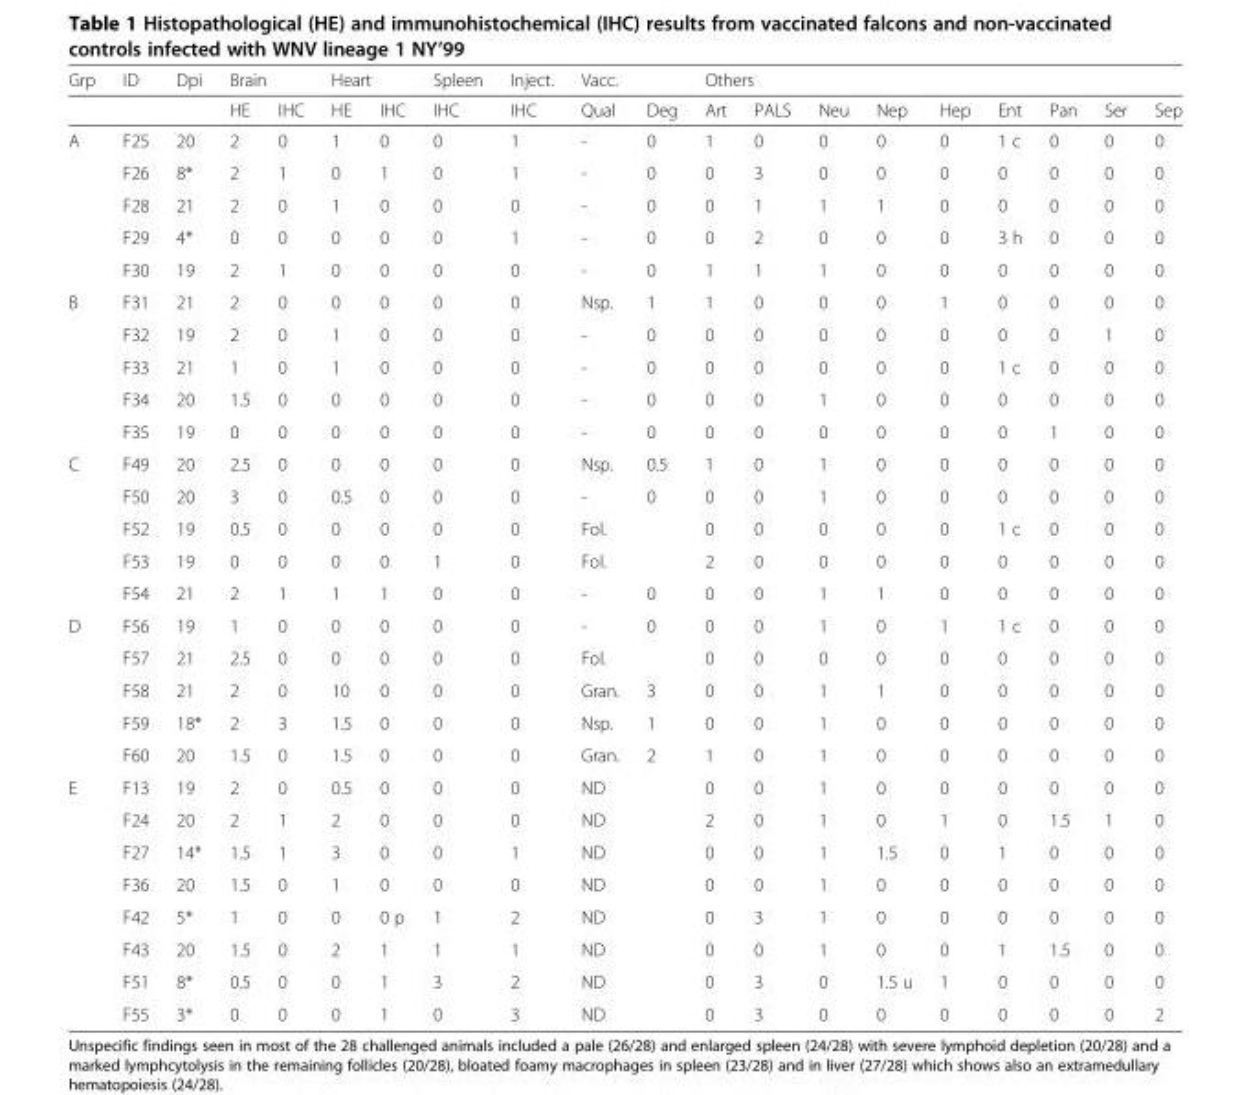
<table><thead><tr><td rowspan="2">Grp</td><td rowspan="2">ID</td><td rowspan="2">Dpi</td><td colspan="2">Brain</td><td colspan="2">Heart</td><td rowspan="2">Spleen IHC</td><td rowspan="2">Inject. IHC</td><td colspan="2">Vacc.</td><td colspan="9">Others</td></tr><tr><td>HE</td><td>IHC</td><td>HE</td><td>IHC</td><td>Qual</td><td>Deg</td><td>Art</td><td>PALS</td><td>Neu</td><td>Nep</td><td>Hep</td><td>Ent</td><td>Pan</td><td>Ser</td><td>Sep</td></tr></thead><tbody><tr><td rowspan="5">A</td><td>F25</td><td>20</td><td>2</td><td>0</td><td>1</td><td>0</td><td>0</td><td>1</td><td>-</td><td>0</td><td>1</td><td>0</td><td>0</td><td>0</td><td>0</td><td>1 c</td><td>0</td><td>0</td><td>0</td></tr><tr><td>F26</td><td>8*</td><td>2</td><td>1</td><td>0</td><td>1</td><td>0</td><td>1</td><td>-</td><td>0</td><td>0</td><td>3</td><td>0</td><td>0</td><td>0</td><td>0</td><td>0</td><td>0</td><td>0</td></tr><tr><td>F28</td><td>21</td><td>2</td><td>0</td><td>1</td><td>0</td><td>0</td><td>0</td><td>-</td><td>0</td><td>0</td><td>1</td><td>1</td><td>1</td><td>0</td><td>0</td><td>0</td><td>0</td><td>0</td></tr><tr><td>F29</td><td>4*</td><td>0</td><td>0</td><td>0</td><td>0</td><td>0</td><td>1</td><td>-</td><td>0</td><td>0</td><td>2</td><td>0</td><td>0</td><td>0</td><td>3 h</td><td>0</td><td>0</td><td>0</td></tr><tr><td>F30</td><td>19</td><td>2</td><td>1</td><td>0</td><td>0</td><td>0</td><td>0</td><td>-</td><td>0</td><td>1</td><td>1</td><td>1</td><td>0</td><td>0</td><td>0</td><td>0</td><td>0</td><td>0</td></tr><tr><td rowspan="5">B</td><td>F31</td><td>21</td><td>2</td><td>0</td><td>0</td><td>0</td><td>0</td><td>0</td><td>Nsp.</td><td>1</td><td>1</td><td>0</td><td>0</td><td>0</td><td>1</td><td>0</td><td>0</td><td>0</td><td>0</td></tr><tr><td>F32</td><td>19</td><td>2</td><td>0</td><td>1</td><td>0</td><td>0</td><td>0</td><td>-</td><td>0</td><td>0</td><td>0</td><td>0</td><td>0</td><td>0</td><td>0</td><td>0</td><td>1</td><td>0</td></tr><tr><td>F33</td><td>21</td><td>1</td><td>0</td><td>1</td><td>0</td><td>0</td><td>0</td><td>-</td><td>0</td><td>0</td><td>0</td><td>0</td><td>0</td><td>0</td><td>1 c</td><td>0</td><td>0</td><td>0</td></tr><tr><td>F34</td><td>20</td><td>1.5</td><td>0</td><td>0</td><td>0</td><td>0</td><td>0</td><td>-</td><td>0</td><td>0</td><td>0</td><td>1</td><td>0</td><td>0</td><td>0</td><td>0</td><td>0</td><td>0</td></tr><tr><td>F35</td><td>19</td><td>0</td><td>0</td><td>0</td><td>0</td><td>0</td><td>0</td><td>-</td><td>0</td><td>0</td><td>0</td><td>0</td><td>0</td><td>0</td><td>0</td><td>1</td><td>0</td><td>0</td></tr><tr><td rowspan="5">C</td><td>F49</td><td>20</td><td>2.5</td><td>0</td><td>0</td><td>0</td><td>0</td><td>0</td><td>Nsp.</td><td>0.5</td><td>1</td><td>0</td><td>1</td><td>0</td><td>0</td><td>0</td><td>0</td><td>0</td><td>0</td></tr><tr><td>F50</td><td>20</td><td>3</td><td>0</td><td>0.5</td><td>0</td><td>0</td><td>0</td><td>-</td><td>0</td><td>0</td><td>0</td><td>1</td><td>0</td><td>0</td><td>0</td><td>0</td><td>0</td><td>0</td></tr><tr><td>F52</td><td>19</td><td>0.5</td><td>0</td><td>0</td><td>0</td><td>0</td><td>0</td><td colspan="2">Fol.</td><td>0</td><td>0</td><td>0</td><td>0</td><td>0</td><td>1 c</td><td>0</td><td>0</td><td>0</td></tr><tr><td>F53</td><td>19</td><td>0</td><td>0</td><td>0</td><td>0</td><td>1</td><td>0</td><td colspan="2">Fol.</td><td>2</td><td>0</td><td>0</td><td>0</td><td>0</td><td>0</td><td>0</td><td>0</td><td>0</td></tr><tr><td>F54</td><td>21</td><td>2</td><td>1</td><td>1</td><td>1</td><td>0</td><td>0</td><td>-</td><td>0</td><td>0</td><td>0</td><td>1</td><td>1</td><td>0</td><td>0</td><td>0</td><td>0</td><td>0</td></tr><tr><td rowspan="5">D</td><td>F56</td><td>19</td><td>1</td><td>0</td><td>0</td><td>0</td><td>0</td><td>0</td><td>-</td><td>0</td><td>0</td><td>0</td><td>1</td><td>0</td><td>1</td><td>1 c</td><td>0</td><td>0</td><td>0</td></tr><tr><td>F57</td><td>21</td><td>2.5</td><td>0</td><td>0</td><td>0</td><td>0</td><td>0</td><td colspan="2">Fol.</td><td>0</td><td>0</td><td>0</td><td>0</td><td>0</td><td>0</td><td>0</td><td>0</td><td>0</td></tr><tr><td>F58</td><td>21</td><td>2</td><td>0</td><td>10</td><td>0</td><td>0</td><td>0</td><td>Gran.</td><td>3</td><td>0</td><td>0</td><td>1</td><td>1</td><td>0</td><td>0</td><td>0</td><td>0</td><td>0</td></tr><tr><td>F59</td><td>18*</td><td>2</td><td>3</td><td>1.5</td><td>0</td><td>0</td><td>0</td><td>Nsp.</td><td>1</td><td>0</td><td>0</td><td>1</td><td>0</td><td>0</td><td>0</td><td>0</td><td>0</td><td>0</td></tr><tr><td>F60</td><td>20</td><td>1.5</td><td>0</td><td>1.5</td><td>0</td><td>0</td><td>0</td><td>Gran.</td><td>2</td><td>1</td><td>0</td><td>1</td><td>0</td><td>0</td><td>0</td><td>0</td><td>0</td><td>0</td></tr><tr><td rowspan="8">E</td><td>F13</td><td>19</td><td>2</td><td>0</td><td>0.5</td><td>0</td><td>0</td><td>0</td><td colspan="2">ND</td><td>0</td><td>0</td><td>1</td><td>0</td><td>0</td><td>0</td><td>0</td><td>0</td><td>0</td></tr><tr><td>F24</td><td>20</td><td>2</td><td>1</td><td>2</td><td>0</td><td>0</td><td>0</td><td colspan="2">ND</td><td>2</td><td>0</td><td>1</td><td>0</td><td>1</td><td>0</td><td>1.5</td><td>1</td><td>0</td></tr><tr><td>F27</td><td>14*</td><td>1.5</td><td>1</td><td>3</td><td>0</td><td>0</td><td>1</td><td colspan="2">ND</td><td>0</td><td>0</td><td>1</td><td>1.5</td><td>0</td><td>1</td><td>0</td><td>0</td><td>0</td></tr><tr><td>F36</td><td>20</td><td>1.5</td><td>0</td><td>1</td><td>0</td><td>0</td><td>0</td><td colspan="2">ND</td><td>0</td><td>0</td><td>1</td><td>0</td><td>0</td><td>0</td><td>0</td><td>0</td><td>0</td></tr><tr><td>F42</td><td>5*</td><td>1</td><td>0</td><td>0</td><td>0 p</td><td>1</td><td>2</td><td colspan="2">ND</td><td>0</td><td>3</td><td>1</td><td>0</td><td>0</td><td>0</td><td>0</td><td>0</td><td>0</td></tr><tr><td>F43</td><td>20</td><td>1.5</td><td>0</td><td>2</td><td>1</td><td>1</td><td>1</td><td colspan="2">ND</td><td>0</td><td>0</td><td>1</td><td>0</td><td>0</td><td>1</td><td>1.5</td><td>0</td><td>0</td></tr><tr><td>F51</td><td>8*</td><td>0.5</td><td>0</td><td>0</td><td>1</td><td>3</td><td>2</td><td colspan="2">ND</td><td>0</td><td>3</td><td>0</td><td>1.5 u</td><td>1</td><td>0</td><td>0</td><td>0</td><td>0</td></tr><tr><td>F55</td><td>3*</td><td>0</td><td>0</td><td>0</td><td>1</td><td>0</td><td>3</td><td colspan="2">ND</td><td>0</td><td>3</td><td>0</td><td>0</td><td>0</td><td>0</td><td>0</td><td>0</td><td>2</td></tr></tbody></table>